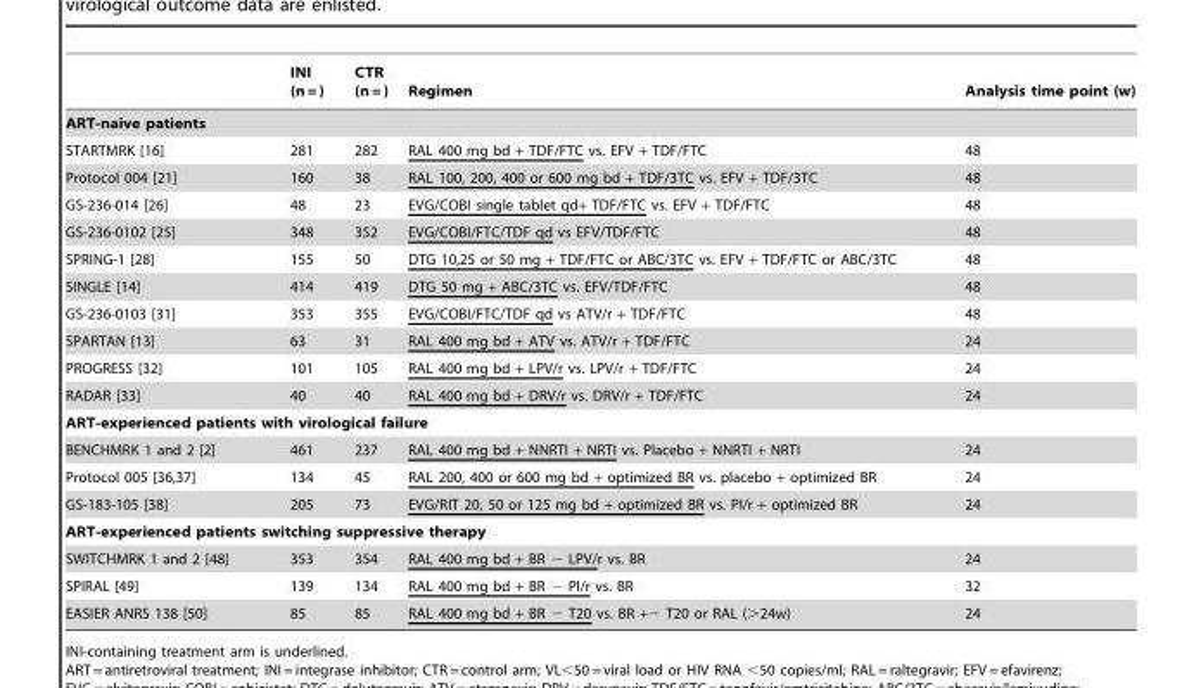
<table><thead><tr><td></td><td>INI (n = )</td><td>CTR (n = )</td><td>Regimen</td><td>Analysis time point (w)</td></tr></thead><tbody><tr><td colspan="5">ART-naive patients</td></tr><tr><td>STARTMRK [16]</td><td>281</td><td>282</td><td>RAL 400 mg bd + TDF/FTC vs. EFV + TDF/FTC</td><td>48</td></tr><tr><td>Protocol 004 [21]</td><td>160</td><td>38</td><td>RAL 100, 200, 400 or 600 mg bd + TDF/3TC vs. EFV + TDF/3TC</td><td>48</td></tr><tr><td>GS-236-014 [26]</td><td>48</td><td>23</td><td>EVG/COBI single tablet qd+ TDF/FTC vs. EFV + TDF/FTC</td><td>48</td></tr><tr><td>GS-236-0102 [25]</td><td>348</td><td>352</td><td>EVG/COBI/FTC/TDF qd vs EFV/TDF/FTC</td><td>48</td></tr><tr><td>SPRING-1 [28]</td><td>155</td><td>50</td><td>DTG 10,25 or 50 mg + TDF/FTC or ABC/3TC vs. EFV + TDF/FTC or ABC/3TC</td><td>48</td></tr><tr><td>SINGLE [14]</td><td>414</td><td>419</td><td>DTG 50 mg + ABC/3TC vs. EFV/TDF/FTC</td><td>48</td></tr><tr><td>GS-236-0103 [31]</td><td>353</td><td>355</td><td>EVG/COBI/FTC/TDF qd vs ATV/r + TDF/FTC</td><td>48</td></tr><tr><td>SPARTAN [13]</td><td>63</td><td>31</td><td>RAL 400 mg bd + ATV vs. ATV/r + TDF/FTC</td><td>24</td></tr><tr><td>PROGRESS [32]</td><td>101</td><td>105</td><td>RAL 400 mg bd + LPV/r vs. LPV/r + TDF/FTC</td><td>24</td></tr><tr><td>RADAR [33]</td><td>40</td><td>40</td><td>RAL 400 mg bd + DRV/r vs. DRV/r + TDF/FTC</td><td>24</td></tr><tr><td colspan="5">ART-experienced patients with virological failure</td></tr><tr><td>BENCHMRK 1 and 2 [2]</td><td>461</td><td>237</td><td>RAL 400 mg bd + NNRTI + NRTI vs. Placebo + NNRTI + NRTI</td><td>24</td></tr><tr><td>Protocol 005 [36,37]</td><td>134</td><td>45</td><td>RAL 200, 400 or 600 mg bd + optimized BR vs. placebo + optimized BR</td><td>24</td></tr><tr><td>GS-183-105 [38]</td><td>205</td><td>73</td><td>EVG/RIT 20, 50 or 125 mg bd + optimized BR vs. PI/r + optimized BR</td><td>24</td></tr><tr><td colspan="5">ART-experienced patients switching suppressive therapy</td></tr><tr><td>SWITCHMRK 1 and 2 [48]</td><td>353</td><td>354</td><td>RAL 400 mg bd + BR − LPV/r vs. BR</td><td>24</td></tr><tr><td>SPIRAL [49]</td><td>139</td><td>134</td><td>RAL 400 mg bd + BR − PI/r vs. BR</td><td>32</td></tr><tr><td>EASIER ANRS 138 [50]</td><td>85</td><td>85</td><td>RAL 400 mg bd + BR − T20 vs. BR +− T20 or RAL (&gt;24w)</td><td>24</td></tr></tbody></table>